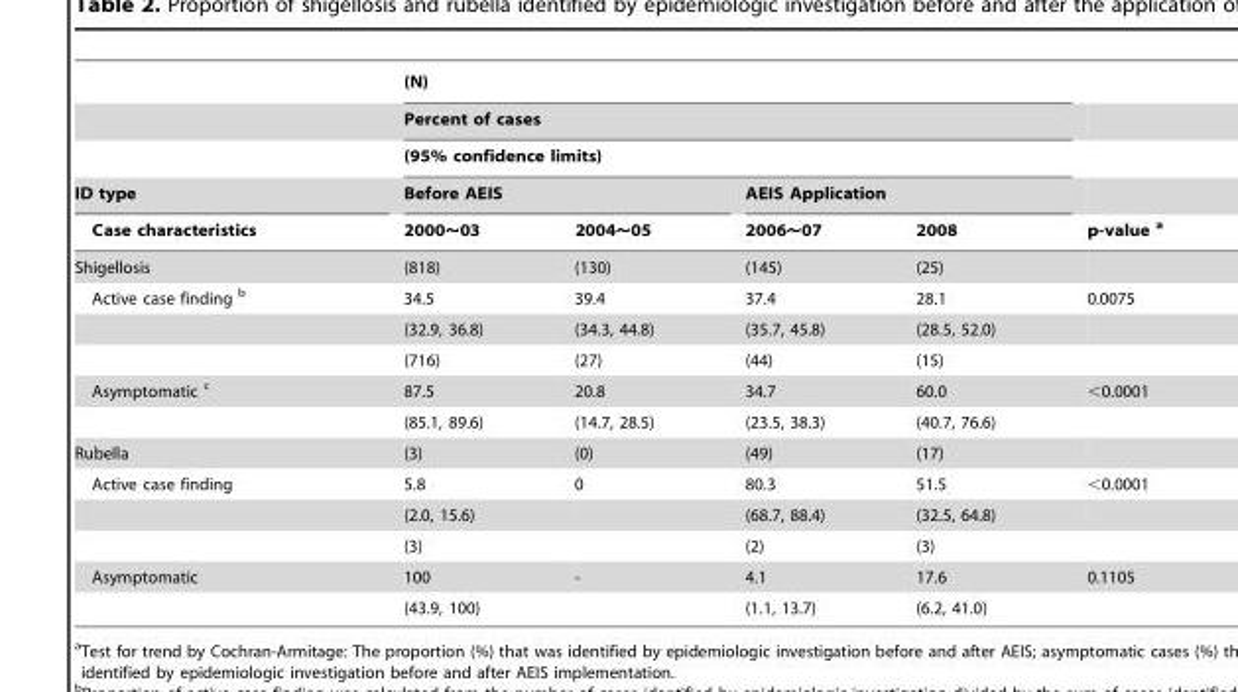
<table><thead><tr><td rowspan="5">ID type Case characteristics</td><td rowspan="3" colspan="4">(N) Percent of cases (95% confidence limits)</td><td rowspan="5">p-value a</td></tr><tr></tr><tr></tr><tr><td colspan="2">Before AEIS</td><td colspan="2">AEIS Application</td></tr><tr><td>2000∼03</td><td>2004∼05</td><td>2006∼07</td><td>2008</td></tr></thead><tbody><tr><td>Shigellosis</td><td>(818)</td><td>(130)</td><td>(145)</td><td>(25)</td><td></td></tr><tr><td rowspan="3">Active case finding b</td><td>34.5</td><td>39.4</td><td>37.4</td><td>28.1</td><td>0.0075</td></tr><tr><td>(32.9, 36.8)</td><td>(34.3, 44.8)</td><td>(35.7, 45.8)</td><td>(28.5, 52.0)</td><td></td></tr><tr><td>(716)</td><td>(27)</td><td>(44)</td><td>(15)</td><td></td></tr><tr><td rowspan="2">Asymptomatic c</td><td>87.5</td><td>20.8</td><td>34.7</td><td>60.0</td><td>&lt;0.0001</td></tr><tr><td>(85.1, 89.6)</td><td>(14.7, 28.5)</td><td>(23.5, 38.3)</td><td>(40.7, 76.6)</td><td></td></tr><tr><td>Rubella</td><td>(3)</td><td>(0)</td><td>(49)</td><td>(17)</td><td></td></tr><tr><td rowspan="3">Active case finding</td><td>5.8</td><td>0</td><td>80.3</td><td>51.5</td><td>&lt;0.0001</td></tr><tr><td>(2.0, 15.6)</td><td></td><td>(68.7, 88.4)</td><td>(32.5, 64.8)</td><td></td></tr><tr><td>(3)</td><td></td><td>(2)</td><td>(3)</td><td></td></tr><tr><td rowspan="2">Asymptomatic</td><td>100</td><td>-</td><td>4.1</td><td>17.6</td><td>0.1105</td></tr><tr><td>(43.9, 100)</td><td></td><td>(1.1, 13.7)</td><td>(6.2, 41.0)</td><td></td></tr></tbody></table>